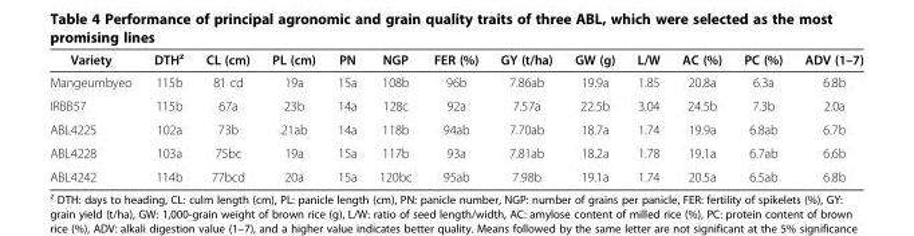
<table><thead><tr><td>Variety</td><td>DTH<sup>z</sup></td><td>CL (cm)</td><td>PL (cm)</td><td>PN</td><td>NGP</td><td>FER (%)</td><td>GY (t/ha)</td><td>GW (g)</td><td>L/W</td><td>AC (%)</td><td>PC (%)</td><td>ADV (1–7)</td></tr></thead><tbody><tr><td>Mangeumbyeo</td><td>115b</td><td>81 cd</td><td>19a</td><td>15a</td><td>108b</td><td>96b</td><td>7.86ab</td><td>19.9a</td><td>1.85</td><td>20.8a</td><td>6.3a</td><td>6.8b</td></tr><tr><td>IRBB57</td><td>115b</td><td>67a</td><td>23b</td><td>14a</td><td>128c</td><td>92a</td><td>7.57a</td><td>22.5b</td><td>3.04</td><td>24.5b</td><td>7.3b</td><td>2.0a</td></tr><tr><td>ABL4225</td><td>102a</td><td>73b</td><td>21ab</td><td>14a</td><td>118b</td><td>94ab</td><td>7.70ab</td><td>18.7a</td><td>1.74</td><td>19.9a</td><td>6.8ab</td><td>6.7b</td></tr><tr><td>ABL4228</td><td>103a</td><td>75bc</td><td>19a</td><td>15a</td><td>117b</td><td>93a</td><td>7.81ab</td><td>18.2a</td><td>1.78</td><td>19.1a</td><td>6.7ab</td><td>6.6b</td></tr><tr><td>ABL4242</td><td>114b</td><td>77bcd</td><td>20a</td><td>15a</td><td>120bc</td><td>95ab</td><td>7.98b</td><td>19.1a</td><td>1.74</td><td>20.5a</td><td>6.5ab</td><td>6.8b</td></tr></tbody></table>